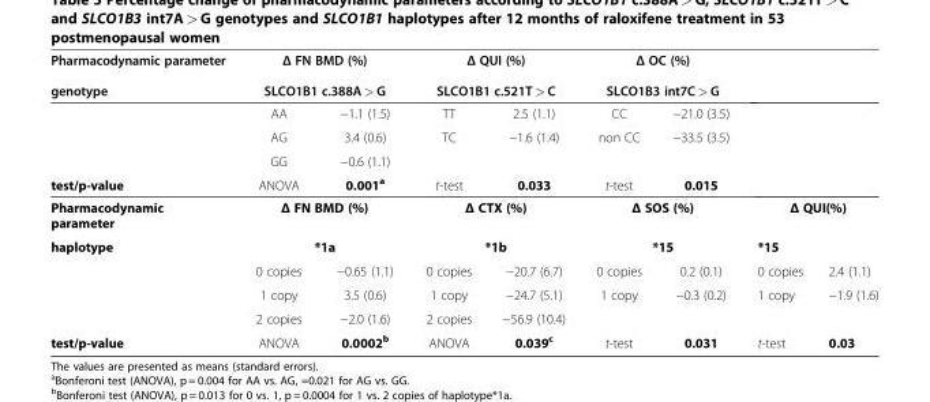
<table><thead><tr><td rowspan="3">Pharmacodynamic parameter genotype</td><td rowspan="2" colspan="2">Δ FN BMD (%) SLCO1B1 c.388A &gt; G</td><td rowspan="2" colspan="2">Δ QUI (%) SLCO1B1 c.521T &gt; C</td><td rowspan="2" colspan="2">Δ OC (%) SLCO1B3 int7C &gt; G</td><td rowspan="3"></td><td rowspan="3"></td></tr><tr></tr><tr><td>AA</td><td>−1.1 (1.5)</td><td>TT</td><td>2.5 (1.1)</td><td>CC</td><td>−21.0 (3.5)</td></tr></thead><tbody><tr><td></td><td>AG</td><td>3.4 (0.6)</td><td>TC</td><td>−1.6 (1.4)</td><td>non CC</td><td>−33.5 (3.5)</td><td></td><td></td></tr><tr><td></td><td>GG</td><td>−0.6 (1.1)</td><td></td><td></td><td></td><td></td><td></td><td></td></tr><tr><td>test/p-value</td><td>ANOVA</td><td>0.001<sup>a</sup></td><td>t-test</td><td>0.033</td><td>t-test</td><td>0.015</td><td></td><td></td></tr><tr><td>Pharmacodynamic parameter</td><td colspan="2">Δ FN BMD (%)</td><td colspan="2">Δ CTX (%)</td><td colspan="2">Δ SOS (%)</td><td colspan="2">Δ QUI(%)</td></tr><tr><td rowspan="4">haplotype</td><td colspan="2">*1a</td><td colspan="2">*1b</td><td colspan="2">*15</td><td colspan="2">*15</td></tr><tr><td>0 copies</td><td>−0.65 (1.1)</td><td>0 copies</td><td>−20.7 (6.7)</td><td>0 copies</td><td>0.2 (0.1)</td><td>0 copies</td><td>2.4 (1.1)</td></tr><tr><td>1 copy</td><td>3.5 (0.6)</td><td>1 copy</td><td>−24.7 (5.1)</td><td>1 copy</td><td>−0.3 (0.2)</td><td>1 copy</td><td>−1.9 (1.6)</td></tr><tr><td>2 copies</td><td>−2.0 (1.6)</td><td>2 copies</td><td>−56.9 (10.4)</td><td></td><td></td><td></td><td></td></tr><tr><td>test/p-value</td><td>ANOVA</td><td>0.0002<sup>b</sup></td><td>ANOVA</td><td>0.039<sup>c</sup></td><td>t-test</td><td>0.031</td><td>t-test</td><td>0.03</td></tr></tbody></table>